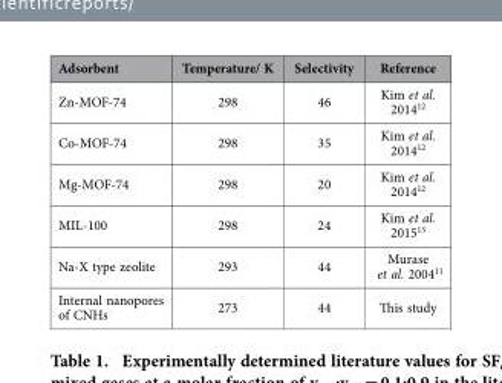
<table><thead><tr><td>Adsorbent</td><td>Temperature/ K</td><td>Selectivity</td><td>Reference</td></tr></thead><tbody><tr><td>Zn-MOF-74</td><td>298</td><td>46</td><td>Kim et al. 2014<sup>12</sup></td></tr><tr><td>Co-MOF-74</td><td>298</td><td>35</td><td>Kim et al. 2014<sup>12</sup></td></tr><tr><td>Mg-MOF-74</td><td>298</td><td>20</td><td>Kim et al. 2014<sup>12</sup></td></tr><tr><td>MIL-100</td><td>298</td><td>24</td><td>Kim et al. 2015<sup>13</sup></td></tr><tr><td>Na-X type zeolite</td><td>293</td><td>44</td><td>Murase et al. 2004<sup>11</sup></td></tr><tr><td>Internal nanopores of CNHs</td><td>273</td><td>44</td><td>This study</td></tr></tbody></table>